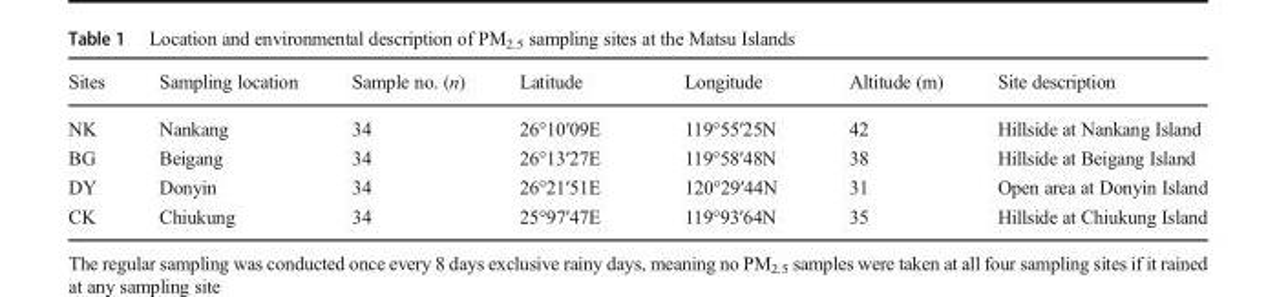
<table><thead><tr><td>Sites</td><td>Sampling location</td><td>Sample no. (n)</td><td>Latitude</td><td>Longitude</td><td>Altitude (m)</td><td>Site description</td></tr></thead><tbody><tr><td>NK</td><td>Nankang</td><td>34</td><td>26°10′09E</td><td>119°55′25N</td><td>42</td><td>Hillside at Nankang Island</td></tr><tr><td>BG</td><td>Beigang</td><td>34</td><td>26°13′27E</td><td>119°58′48N</td><td>38</td><td>Hillside at Beigang Island</td></tr><tr><td>DY</td><td>Donyin</td><td>34</td><td>26°21′51E</td><td>120°29′44N</td><td>31</td><td>Open area at Donyin Island</td></tr><tr><td>CK</td><td>Chiukung</td><td>34</td><td>25°97′47E</td><td>119°93′64N</td><td>35</td><td>Hillside at Chiukung Island</td></tr></tbody></table>